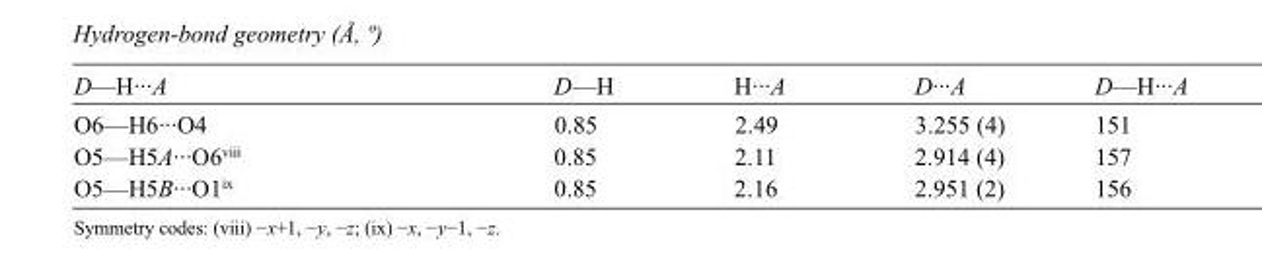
<table><tbody><tr><td>D—H···A</td><td>D—H</td><td>H···A</td><td>D···A</td><td>D—H···A</td></tr><tr><td>O6—H6···O4</td><td>0.85</td><td>2.49</td><td>3.255 (4)</td><td>151</td></tr><tr><td>O5—H5A···O6<sup>viii</sup></td><td>0.85</td><td>2.11</td><td>2.914 (4)</td><td>157</td></tr><tr><td>O5—H5B···O1<sup>ix</sup></td><td>0.85</td><td>2.16</td><td>2.951 (2)</td><td>156</td></tr></tbody></table>